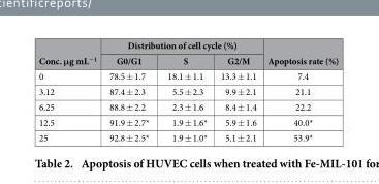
<table><thead><tr><td rowspan="2">Conc. μg mL<sup>−1</sup></td><td colspan="3">Distribution of cell cycle (%)</td><td rowspan="2">Apoptosis rate (%)</td></tr><tr><td>G0/G1</td><td>S</td><td>G2/M</td></tr></thead><tbody><tr><td>0</td><td>78.5 ± 1.7</td><td>18.1 ± 1.1</td><td>13.3 ± 1.1</td><td>7.4</td></tr><tr><td>3.12</td><td>87.4 ± 2.3</td><td>5.5 ± 2.3</td><td>9.9 ± 2.1</td><td>21.1</td></tr><tr><td>6.25</td><td>88.8 ± 2.2</td><td>2.3 ± 1.6</td><td>8.4 ± 1.4</td><td>22.2</td></tr><tr><td>12.5</td><td>91.9 ± 2.7*</td><td>1.9 ± 1.6*</td><td>5.9 ± 1.6</td><td>40.0*</td></tr><tr><td>25</td><td>92.8 ± 2.5*</td><td>1.9 ± 1.0*</td><td>5.1 ± 2.1</td><td>53.9*</td></tr></tbody></table>